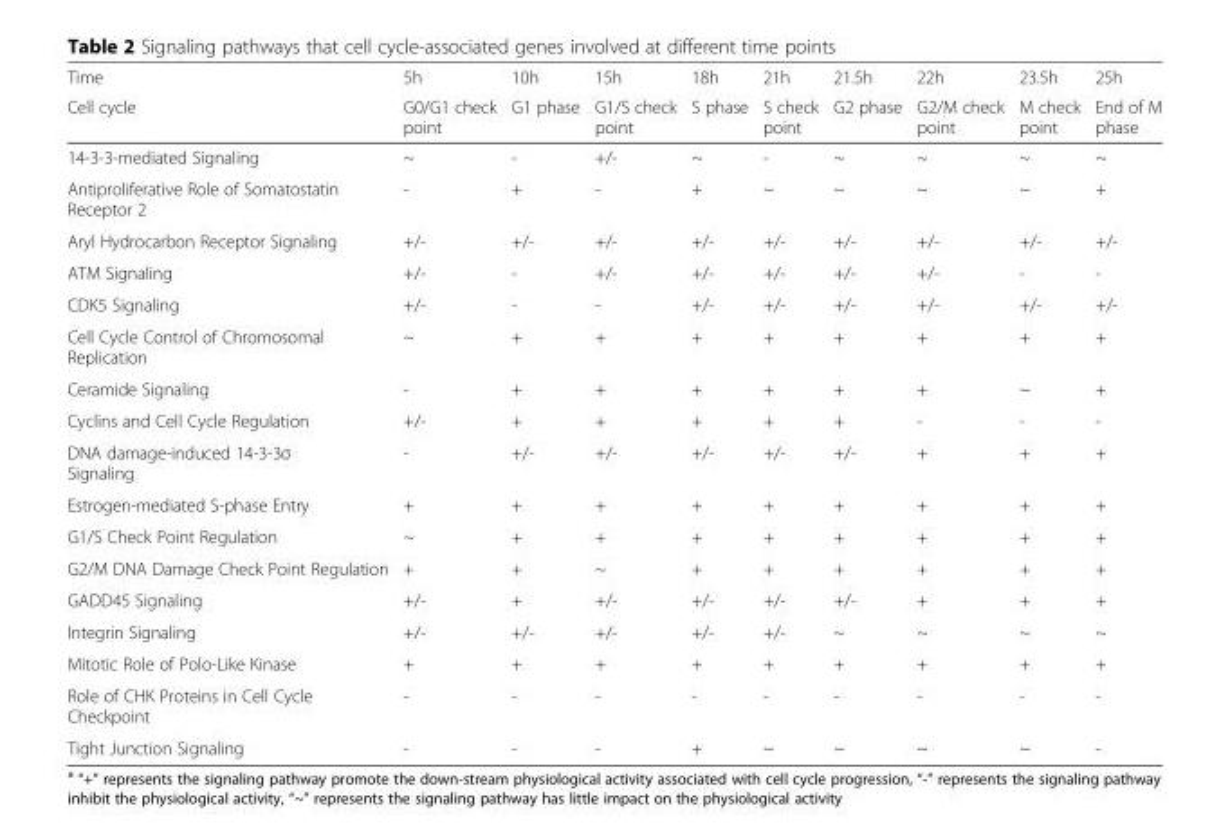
<table><thead><tr><td rowspan="2">Time Cell cycle</td><td rowspan="2">5h G0/G1 check point</td><td rowspan="2">10h G1 phase</td><td rowspan="2">15h G1/S check point</td><td rowspan="2">18h S phase</td><td rowspan="2">21h S check point</td><td rowspan="2">21.5h G2 phase</td><td rowspan="2">22h G2/M check point</td><td rowspan="2">23.5h M check point</td><td rowspan="2">25h End of M phase</td></tr><tr></tr></thead><tbody><tr><td>14-3-3-mediated Signaling</td><td>~</td><td>-</td><td>+/-</td><td>~</td><td>-</td><td>~</td><td>~</td><td>~</td><td>~</td></tr><tr><td>Antiproliferative Role of Somatostatin Receptor 2</td><td>-</td><td>+</td><td>-</td><td>+</td><td>~</td><td>~</td><td>~</td><td>~</td><td>+</td></tr><tr><td>Aryl Hydrocarbon Receptor Signaling</td><td>+/-</td><td>+/-</td><td>+/-</td><td>+/-</td><td>+/-</td><td>+/-</td><td>+/-</td><td>+/-</td><td>+/-</td></tr><tr><td>ATM Signaling</td><td>+/-</td><td>-</td><td>+/-</td><td>+/-</td><td>+/-</td><td>+/-</td><td>+/-</td><td>-</td><td>-</td></tr><tr><td>CDK5 Signaling</td><td>+/-</td><td>-</td><td>-</td><td>+/-</td><td>+/-</td><td>+/-</td><td>+/-</td><td>+/-</td><td>+/-</td></tr><tr><td>Cell Cycle Control of Chromosomal Replication</td><td>~</td><td>+</td><td>+</td><td>+</td><td>+</td><td>+</td><td>+</td><td>+</td><td>+</td></tr><tr><td>Ceramide Signaling</td><td>-</td><td>+</td><td>+</td><td>+</td><td>+</td><td>+</td><td>+</td><td>~</td><td>+</td></tr><tr><td>Cyclins and Cell Cycle Regulation</td><td>+/-</td><td>+</td><td>+</td><td>+</td><td>+</td><td>+</td><td>-</td><td>-</td><td>-</td></tr><tr><td>DNA damage-induced 14-3-3σ Signaling</td><td>-</td><td>+/-</td><td>+/-</td><td>+/-</td><td>+/-</td><td>+/-</td><td>+</td><td>+</td><td>+</td></tr><tr><td>Estrogen-mediated S-phase Entry</td><td>+</td><td>+</td><td>+</td><td>+</td><td>+</td><td>+</td><td>+</td><td>+</td><td>+</td></tr><tr><td>G1/S Check Point Regulation</td><td>~</td><td>+</td><td>+</td><td>+</td><td>+</td><td>+</td><td>+</td><td>+</td><td>+</td></tr><tr><td>G2/M DNA Damage Check Point Regulation</td><td>+</td><td>+</td><td>~</td><td>+</td><td>+</td><td>+</td><td>+</td><td>+</td><td>+</td></tr><tr><td>GADD45 Signaling</td><td>+/-</td><td>+</td><td>+/-</td><td>+/-</td><td>+/-</td><td>+/-</td><td>+</td><td>+</td><td>+</td></tr><tr><td>Integrin Signaling</td><td>+/-</td><td>+/-</td><td>+/-</td><td>+/-</td><td>+/-</td><td>~</td><td>~</td><td>~</td><td>~</td></tr><tr><td>Mitotic Role of Polo-Like Kinase</td><td>+</td><td>+</td><td>+</td><td>+</td><td>+</td><td>+</td><td>+</td><td>+</td><td>+</td></tr><tr><td>Role of CHK Proteins in Cell Cycle Checkpoint</td><td>-</td><td>-</td><td>-</td><td>-</td><td>-</td><td>-</td><td>-</td><td>-</td><td>-</td></tr><tr><td>Tight Junction Signaling</td><td>-</td><td>-</td><td>-</td><td>+</td><td>~</td><td>~</td><td>~</td><td>~</td><td>-</td></tr></tbody></table>